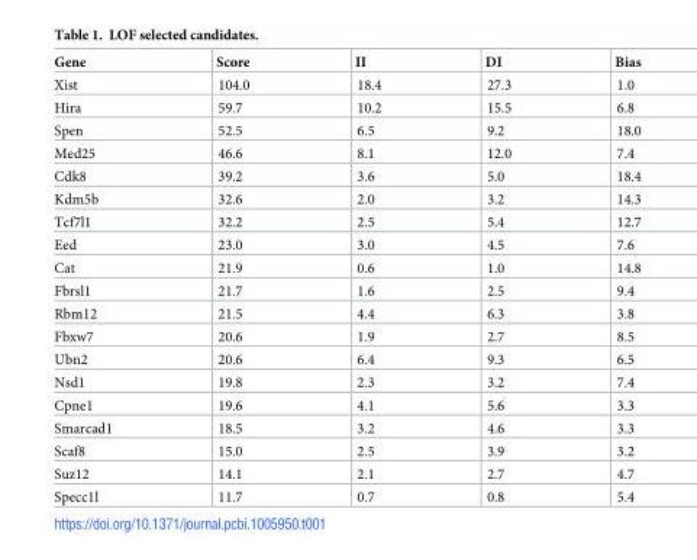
<table><thead><tr><td>Gene</td><td>Score</td><td>II</td><td>DI</td><td>Bias</td></tr></thead><tbody><tr><td>Xist</td><td>104.0</td><td>18.4</td><td>27.3</td><td>1.0</td></tr><tr><td>Hira</td><td>59.7</td><td>10.2</td><td>15.5</td><td>6.8</td></tr><tr><td>Spen</td><td>52.5</td><td>6.5</td><td>9.2</td><td>18.0</td></tr><tr><td>Med25</td><td>46.6</td><td>8.1</td><td>12.0</td><td>7.4</td></tr><tr><td>Cdk8</td><td>39.2</td><td>3.6</td><td>5.0</td><td>18.4</td></tr><tr><td>Kdm5b</td><td>32.6</td><td>2.0</td><td>3.2</td><td>14.3</td></tr><tr><td>Tcf7l1</td><td>32.2</td><td>2.5</td><td>5.4</td><td>12.7</td></tr><tr><td>Eed</td><td>23.0</td><td>3.0</td><td>4.5</td><td>7.6</td></tr><tr><td>Cat</td><td>21.9</td><td>0.6</td><td>1.0</td><td>14.8</td></tr><tr><td>Fbrsl1</td><td>21.7</td><td>1.6</td><td>2.5</td><td>9.4</td></tr><tr><td>Rbm12</td><td>21.5</td><td>4.4</td><td>6.3</td><td>3.8</td></tr><tr><td>Fbxw7</td><td>20.6</td><td>1.9</td><td>2.7</td><td>8.5</td></tr><tr><td>Ubn2</td><td>20.6</td><td>6.4</td><td>9.3</td><td>6.5</td></tr><tr><td>Nsd1</td><td>19.8</td><td>2.3</td><td>3.2</td><td>7.4</td></tr><tr><td>Cpne1</td><td>19.6</td><td>4.1</td><td>5.6</td><td>3.3</td></tr><tr><td>Smarcad1</td><td>18.5</td><td>3.2</td><td>4.6</td><td>3.3</td></tr><tr><td>Scaf8</td><td>15.0</td><td>2.5</td><td>3.9</td><td>3.2</td></tr><tr><td>Suz12</td><td>14.1</td><td>2.1</td><td>2.7</td><td>4.7</td></tr><tr><td>Specc1l</td><td>11.7</td><td>0.7</td><td>0.8</td><td>5.4</td></tr></tbody></table>